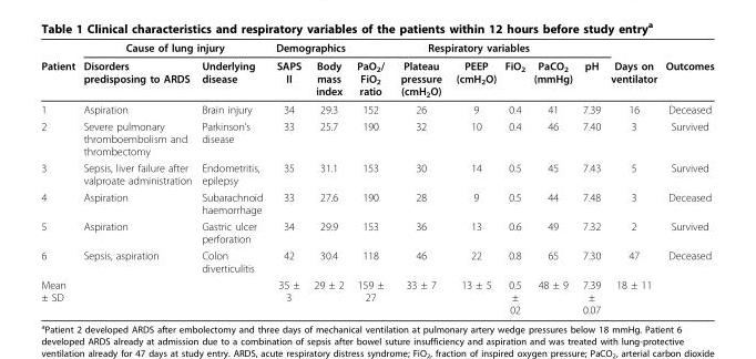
<table><thead><tr><td rowspan="2">Patient</td><td colspan="2">Cause of lung injury</td><td colspan="2">Demographics</td><td colspan="6">Respiratory variables</td><td rowspan="2">Days on ventilator</td><td rowspan="2">Outcomes</td></tr><tr><td>Disorders predisposing to ARDS</td><td>Underlying disease</td><td>SAPS II</td><td>Body mass index</td><td>PaO<sub>2</sub>/ FiO<sub>2</sub> ratio</td><td>Plateau pressure (cmH<sub>2</sub>O)</td><td>PEEP (cmH<sub>2</sub>O)</td><td>FiO<sub>2</sub></td><td>PaCO<sub>2</sub> (mmHg)</td><td>pH</td></tr></thead><tbody><tr><td>1</td><td>Aspiration</td><td>Brain injury</td><td>34</td><td>29.3</td><td>152</td><td>26</td><td>9</td><td>0.4</td><td>41</td><td>7.39</td><td>16</td><td>Deceased</td></tr><tr><td>2</td><td>Severe pulmonary thromboembolism and thrombectomy</td><td>Parkinson’s disease</td><td>33</td><td>25.7</td><td>190</td><td>32</td><td>10</td><td>0.4</td><td>46</td><td>7.40</td><td>3</td><td>Survived</td></tr><tr><td>3</td><td>Sepsis, liver failure after valproate administration</td><td>Endometritis, epilepsy</td><td>35</td><td>31.1</td><td>153</td><td>30</td><td>14</td><td>0.5</td><td>45</td><td>7.43</td><td>5</td><td>Survived</td></tr><tr><td>4</td><td>Aspiration</td><td>Subarachnoid haemorrhage</td><td>33</td><td>27.6</td><td>190</td><td>28</td><td>9</td><td>0.5</td><td>44</td><td>7.48</td><td>3</td><td>Deceased</td></tr><tr><td>5</td><td>Aspiration</td><td>Gastric ulcer perforation</td><td>34</td><td>29.9</td><td>153</td><td>36</td><td>13</td><td>0.6</td><td>49</td><td>7.32</td><td>2</td><td>Survived</td></tr><tr><td>6</td><td>Sepsis, aspiration</td><td>Colon diverticulitis</td><td>42</td><td>30.4</td><td>118</td><td>46</td><td>22</td><td>0.8</td><td>65</td><td>7.30</td><td>47</td><td>Deceased</td></tr><tr><td>Mean ± SD</td><td></td><td></td><td>35 ± 3</td><td>29 ± 2</td><td>159 ± 27</td><td>33 ± 7</td><td>13 ± 5</td><td>0.5 ± 02</td><td>48 ± 9</td><td>7.39 ± 0.07</td><td>18 ± 11</td><td></td></tr></tbody></table>